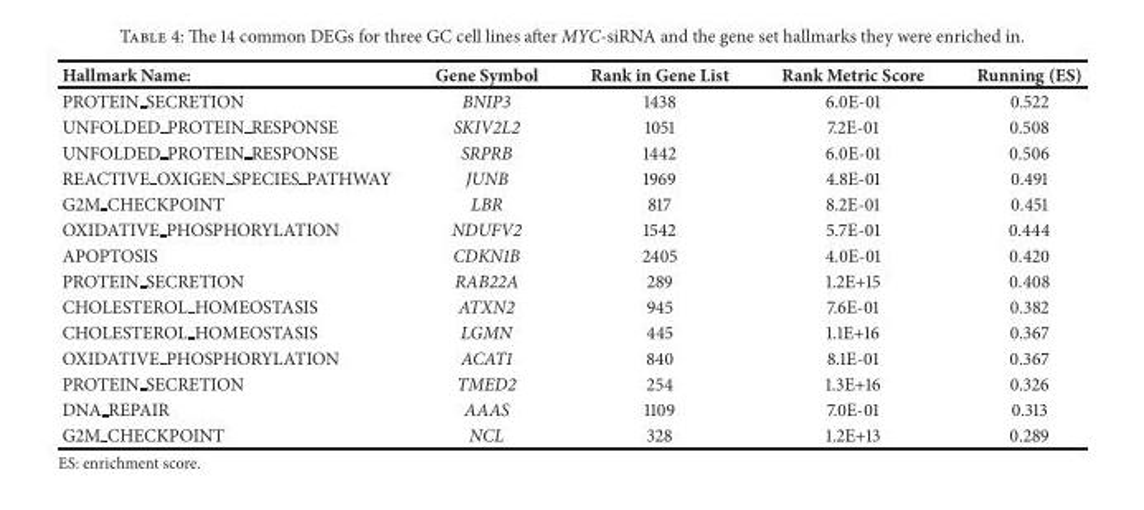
<table><thead><tr><td>Hallmark Name:</td><td>Gene Symbol</td><td>Rank in Gene List</td><td>Rank Metric Score</td><td>Running (ES)</td></tr></thead><tbody><tr><td>PROTEIN SECRETION</td><td>BNIP3</td><td>1438</td><td>6.0E-01</td><td>0.522</td></tr><tr><td>UNFOLDED <sub>PROTEIN</sub> RESPONSE</td><td>SKIV2L2</td><td>1051</td><td>7.2E-01</td><td>0.508</td></tr><tr><td>UNFOLDED <sub>PROTEIN</sub> RESPONSE</td><td>SRPRB</td><td>1442</td><td>6.0E-01</td><td>0.506</td></tr><tr><td>REACTIVE OXIGEN SPECIES PATHWAY</td><td>JUNB</td><td>1969</td><td>4.8E-01</td><td>0.491</td></tr><tr><td>G2M CHECKPOINT</td><td>LBR</td><td>817</td><td>8.2E-01</td><td>0.451</td></tr><tr><td>OXIDATIVE PHOSPHORYLATION</td><td>NDUFV2</td><td>1542</td><td>5.7E-01</td><td>0.444</td></tr><tr><td>APOPTOSIS</td><td>CDKN1B</td><td>2405</td><td>4.0E-01</td><td>0.420</td></tr><tr><td>PROTEIN SECRETION</td><td>RAB22A</td><td>289</td><td>1.2E+15</td><td>0.408</td></tr><tr><td>CHOLESTEROL HOMEOSTASIS</td><td>ATXN2</td><td>945</td><td>7.6E-01</td><td>0.382</td></tr><tr><td>CHOLESTEROL HOMEOSTASIS</td><td>LGMN</td><td>445</td><td>1.1E+16</td><td>0.367</td></tr><tr><td>OXIDATIVE PHOSPHORYLATION</td><td>ACAT1</td><td>840</td><td>8.1E-01</td><td>0.367</td></tr><tr><td>PROTEIN SECRETION</td><td>TMED2</td><td>254</td><td>1.3E+16</td><td>0.326</td></tr><tr><td>DNA REPAIR</td><td>AAAS</td><td>1109</td><td>7.0E-01</td><td>0.313</td></tr><tr><td>G2M CHECKPOINT</td><td>NCL</td><td>328</td><td>1.2E+13</td><td>0.289</td></tr></tbody></table>